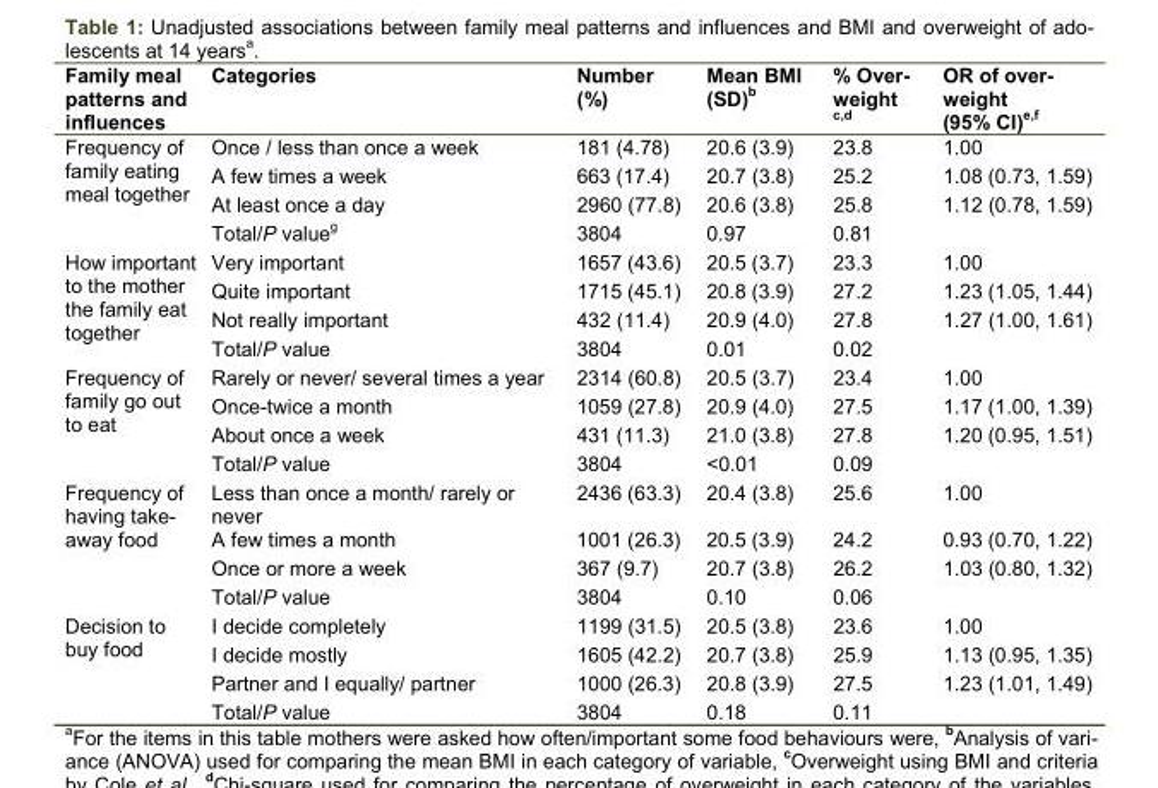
<table><thead><tr><td>Family meal patterns and influences</td><td>Categories</td><td>Number (%)</td><td>Mean BMI (SD)b</td><td>% Over- weight c,d</td><td>OR of over- weight (95% CI)e,f</td></tr></thead><tbody><tr><td rowspan="4">Frequency of family eating meal together</td><td>Once / less than once a week</td><td>181 (4.78)</td><td>20.6 (3.9)</td><td>23.8</td><td>1.00</td></tr><tr><td>A few times a week</td><td>663 (17.4)</td><td>20.7 (3.8)</td><td>25.2</td><td>1.08 (0.73, 1.59)</td></tr><tr><td>At least once a day</td><td>2960 (77.8)</td><td>20.6 (3.8)</td><td>25.8</td><td>1.12 (0.78, 1.59)</td></tr><tr><td>Total/P valueg</td><td>3804</td><td>0.97</td><td>0.81</td><td></td></tr><tr><td rowspan="4">How important to the mother the family eat together</td><td>Very important</td><td>1657 (43.6)</td><td>20.5 (3.7)</td><td>23.3</td><td>1.00</td></tr><tr><td>Quite important</td><td>1715 (45.1)</td><td>20.8 (3.9)</td><td>27.2</td><td>1.23 (1.05, 1.44)</td></tr><tr><td>Not really important</td><td>432 (11.4)</td><td>20.9 (4.0)</td><td>27.8</td><td>1.27 (1.00, 1.61)</td></tr><tr><td>Total/P value</td><td>3804</td><td>0.01</td><td>0.02</td><td></td></tr><tr><td rowspan="4">Frequency of family go out to eat</td><td>Rarely or never/ several times a year</td><td>2314 (60.8)</td><td>20.5 (3.7)</td><td>23.4</td><td>1.00</td></tr><tr><td>Once-twice a month</td><td>1059 (27.8)</td><td>20.9 (4.0)</td><td>27.5</td><td>1.17 (1.00, 1.39)</td></tr><tr><td>About once a week</td><td>431 (11.3)</td><td>21.0 (3.8)</td><td>27.8</td><td>1.20 (0.95, 1.51)</td></tr><tr><td>Total/P value</td><td>3804</td><td>&lt;0.01</td><td>0.09</td><td></td></tr><tr><td rowspan="4">Frequency of having take- away food</td><td>Less than once a month/ rarely or never</td><td>2436 (63.3)</td><td>20.4 (3.8)</td><td>25.6</td><td>1.00</td></tr><tr><td>A few times a month</td><td>1001 (26.3)</td><td>20.5 (3.9)</td><td>24.2</td><td>0.93 (0.70, 1.22)</td></tr><tr><td>Once or more a week</td><td>367 (9.7)</td><td>20.7 (3.8)</td><td>26.2</td><td>1.03 (0.80, 1.32)</td></tr><tr><td>Total/P value</td><td>3804</td><td>0.10</td><td>0.06</td><td></td></tr><tr><td rowspan="4">Decision to buy food</td><td>I decide completely</td><td>1199 (31.5)</td><td>20.5 (3.8)</td><td>23.6</td><td>1.00</td></tr><tr><td>I decide mostly</td><td>1605 (42.2)</td><td>20.7 (3.8)</td><td>25.9</td><td>1.13 (0.95, 1.35)</td></tr><tr><td>Partner and I equally/ partner</td><td>1000 (26.3)</td><td>20.8 (3.9)</td><td>27.5</td><td>1.23 (1.01, 1.49)</td></tr><tr><td>Total/P value</td><td>3804</td><td>0.18</td><td>0.11</td><td></td></tr></tbody></table>